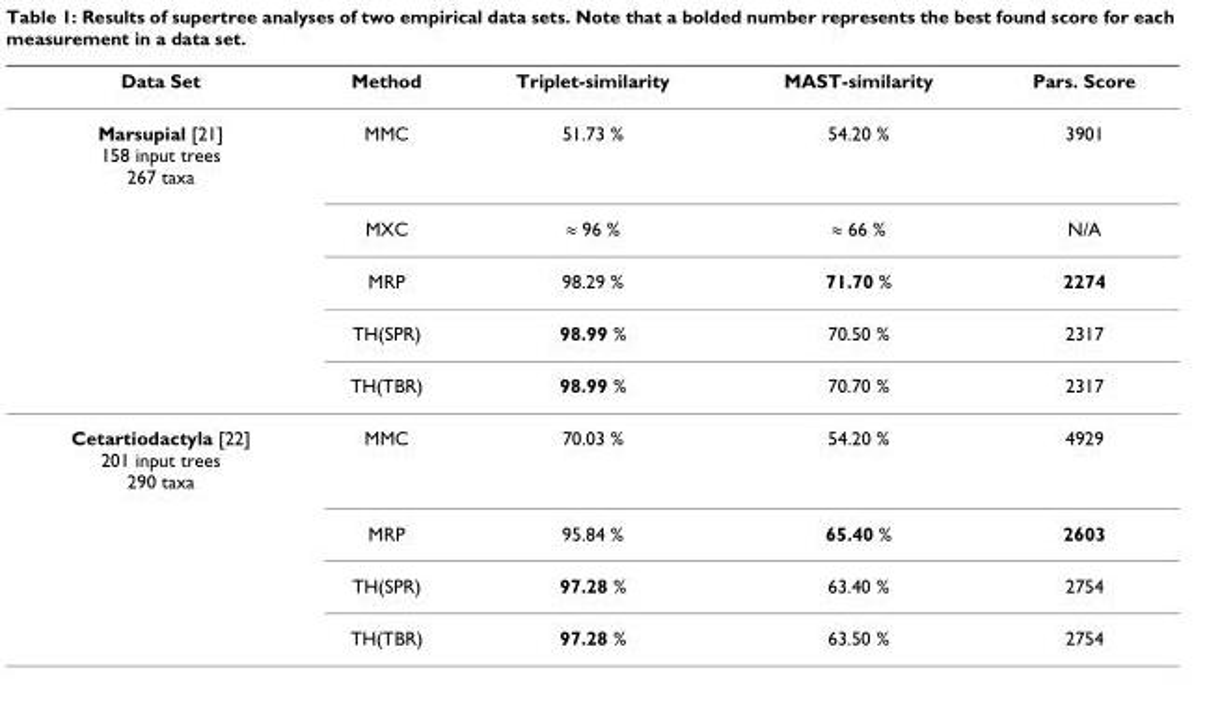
<table><thead><tr><td>Data Set</td><td>Method</td><td>Triplet-similarity</td><td>MAST-similarity</td><td>Pars. Score</td></tr></thead><tbody><tr><td rowspan="5">Marsupial [21] 158 input trees 267 taxa</td><td>MMC</td><td>51.73 %</td><td>54.20 %</td><td>3901</td></tr><tr><td>MXC</td><td>≈ 96 %</td><td>≈ 66 %</td><td>N/A</td></tr><tr><td>MRP</td><td>98.29 %</td><td>71.70 %</td><td>2274</td></tr><tr><td>TH(SPR)</td><td>98.99 %</td><td>70.50 %</td><td>2317</td></tr><tr><td>TH(TBR)</td><td>98.99 %</td><td>70.70 %</td><td>2317</td></tr><tr><td rowspan="4">Cetartiodactyla [22] 201 input trees 290 taxa</td><td>MMC</td><td>70.03 %</td><td>54.20 %</td><td>4929</td></tr><tr><td>MRP</td><td>95.84 %</td><td>65.40 %</td><td>2603</td></tr><tr><td>TH(SPR)</td><td>97.28 %</td><td>63.40 %</td><td>2754</td></tr><tr><td>TH(TBR)</td><td>97.28 %</td><td>63.50 %</td><td>2754</td></tr></tbody></table>